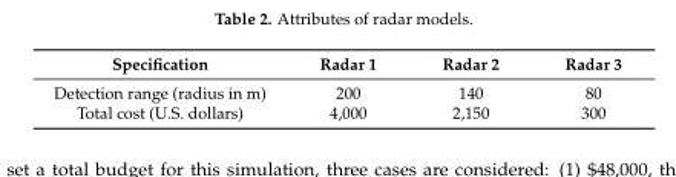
<table><thead><tr><td>Specification</td><td>Radar 1</td><td>Radar 2</td><td>Radar 3</td></tr></thead><tbody><tr><td>Detection range (radius in m)</td><td>200</td><td>140</td><td>80</td></tr><tr><td>Total cost (U.S. dollars)</td><td>4,000</td><td>2,150</td><td>300</td></tr></tbody></table>